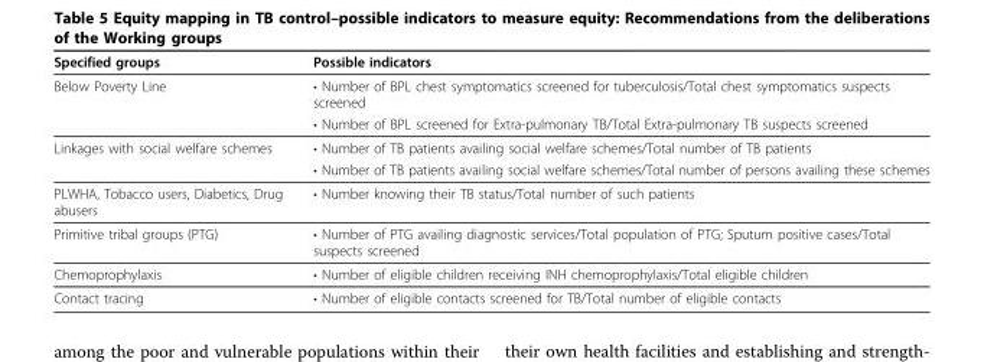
<table><thead><tr><td>Specified groups</td><td>Possible indicators</td></tr></thead><tbody><tr><td rowspan="2">Below Poverty Line</td><td>• Number of BPL chest symptomatics screened for tuberculosis/Total chest symptomatics suspects screened</td></tr><tr><td>• Number of BPL screened for Extra-pulmonary TB/Total Extra-pulmonary TB suspects screened</td></tr><tr><td rowspan="2">Linkages with social welfare schemes</td><td>• Number of TB patients availing social welfare schemes/Total number of TB patients</td></tr><tr><td>• Number of TB patients availing social welfare schemes/Total number of persons availing these schemes</td></tr><tr><td>PLWHA, Tobacco users, Diabetics, Drug abusers</td><td>• Number knowing their TB status/Total number of such patients</td></tr><tr><td>Primitive tribal groups (PTG)</td><td>• Number of PTG availing diagnostic services/Total population of PTG; Sputum positive cases/Total suspects screened</td></tr><tr><td>Chemoprophylaxis</td><td>• Number of eligible children receiving INH chemoprophylaxis/Total eligible children</td></tr><tr><td>Contact tracing</td><td>• Number of eligible contacts screened for TB/Total number of eligible contacts</td></tr></tbody></table>